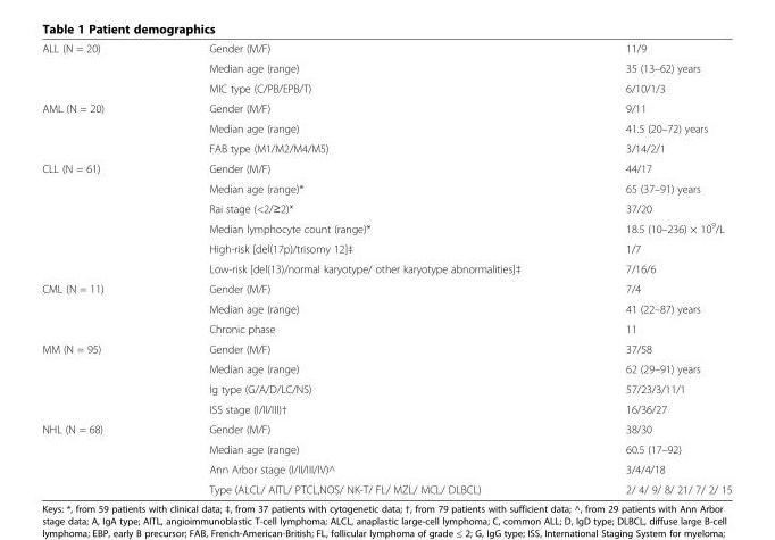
<table><tbody><tr><td rowspan="3">ALL (N = 20)</td><td>Gender (M/F)</td><td>11/9</td></tr><tr><td>Median age (range)</td><td>35 (13–62) years</td></tr><tr><td>MIC type (C/PB/EPB/T)</td><td>6/10/1/3</td></tr><tr><td rowspan="3">AML (N = 20)</td><td>Gender (M/F)</td><td>9/11</td></tr><tr><td>Median age (range)</td><td>41.5 (20–72) years</td></tr><tr><td>FAB type (M1/M2/M4/M5)</td><td>3/14/2/1</td></tr><tr><td rowspan="6">CLL (N = 61)</td><td>Gender (M/F)</td><td>44/17</td></tr><tr><td>Median age (range)*</td><td>65 (37–91) years</td></tr><tr><td>Rai stage (&lt;2/≥2)*</td><td>37/20</td></tr><tr><td>Median lymphocyte count (range)*</td><td>18.5 (10–236) × 10<sup>9</sup>/L</td></tr><tr><td>High-risk [del(17p)/trisomy 12]‡</td><td>1/7</td></tr><tr><td>Low-risk [del(13)/normal karyotype/ other karyotype abnormalities]‡</td><td>7/16/6</td></tr><tr><td rowspan="3">CML (N = 11)</td><td>Gender (M/F)</td><td>7/4</td></tr><tr><td>Median age (range)</td><td>41 (22–87) years</td></tr><tr><td>Chronic phase</td><td>11</td></tr><tr><td rowspan="4">MM (N = 95)</td><td>Gender (M/F)</td><td>37/58</td></tr><tr><td>Median age (range)</td><td>62 (29–91) years</td></tr><tr><td>Ig type (G/A/D/LC/NS)</td><td>57/23/3/11/1</td></tr><tr><td>ISS stage (I/II/III)†</td><td>16/36/27</td></tr><tr><td rowspan="4">NHL (N = 68)</td><td>Gender (M/F)</td><td>38/30</td></tr><tr><td>Median age (range)</td><td>60.5 (17–92)</td></tr><tr><td>Ann Arbor stage (I/II/III/IV)^</td><td>3/4/4/18</td></tr><tr><td>Type (ALCL/ AITL/ PTCL,NOS/ NK-T/ FL/ MZL/ MCL/ DLBCL)</td><td>2/ 4/ 9/ 8/ 21/ 7/ 2/ 15</td></tr></tbody></table>